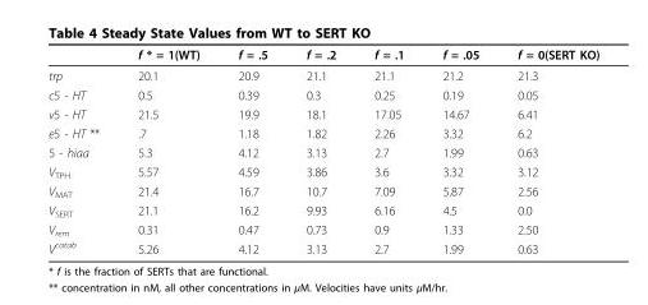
<table><thead><tr><td></td><td>f * = 1(WT)</td><td>f = .5</td><td>f = .2</td><td>f = .1</td><td>f = .05</td><td>f = 0(SERT KO)</td></tr></thead><tbody><tr><td>trp</td><td>20.1</td><td>20.9</td><td>21.1</td><td>21.1</td><td>21.2</td><td>21.3</td></tr><tr><td>c5 - HT</td><td>0.5</td><td>0.39</td><td>0.3</td><td>0.25</td><td>0.19</td><td>0.05</td></tr><tr><td>v5 - HT</td><td>21.5</td><td>19.9</td><td>18.1</td><td>17.05</td><td>14.67</td><td>6.41</td></tr><tr><td>e5 - HT **</td><td>.7</td><td>1.18</td><td>1.82</td><td>2.26</td><td>3.32</td><td>6.2</td></tr><tr><td>5 - hiaa</td><td>5.3</td><td>4.12</td><td>3.13</td><td>2.7</td><td>1.99</td><td>0.63</td></tr><tr><td>V<sub>TPH</sub></td><td>5.57</td><td>4.59</td><td>3.86</td><td>3.6</td><td>3.32</td><td>3.12</td></tr><tr><td>V<sub>MAT</sub></td><td>21.4</td><td>16.7</td><td>10.7</td><td>7.09</td><td>5.87</td><td>2.56</td></tr><tr><td>V<sub>SERT</sub></td><td>21.1</td><td>16.2</td><td>9.93</td><td>6.16</td><td>4.5</td><td>0.0</td></tr><tr><td>V<sub>rem</sub></td><td>0.31</td><td>0.47</td><td>0.73</td><td>0.9</td><td>1.33</td><td>2.50</td></tr><tr><td>V<sup>catab</sup></td><td>5.26</td><td>4.12</td><td>3.13</td><td>2.7</td><td>1.99</td><td>0.63</td></tr></tbody></table>